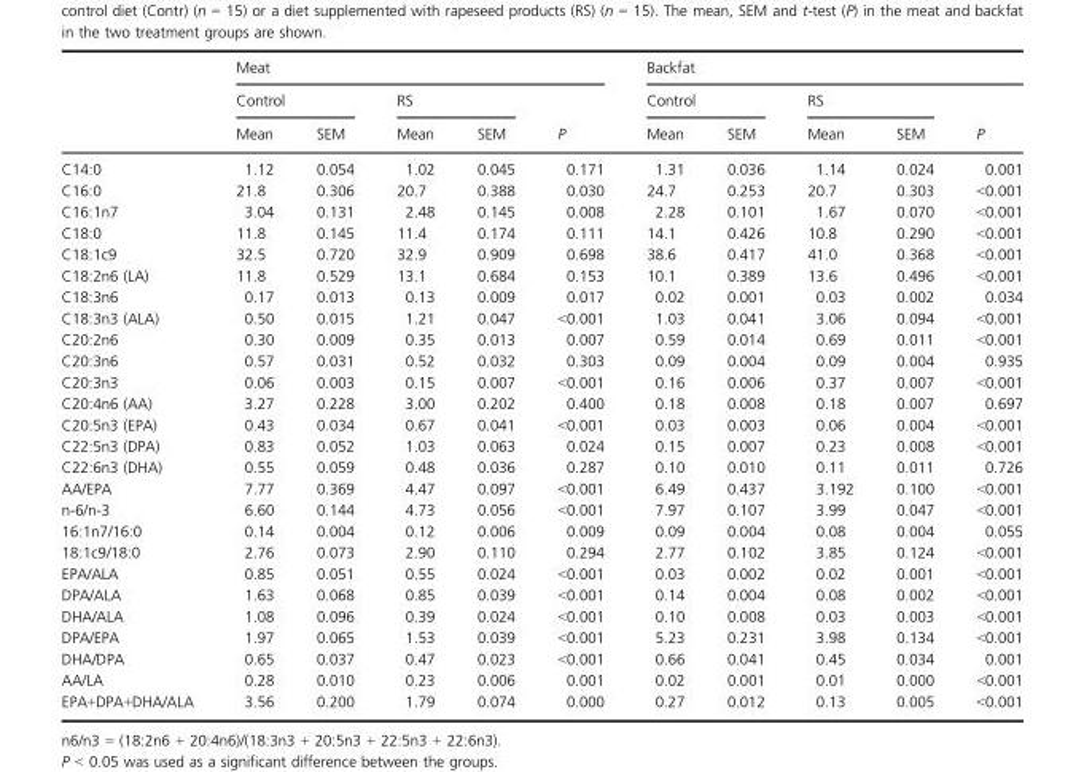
<table><thead><tr><td rowspan="3"></td><td colspan="5">Meat</td><td colspan="5">Backfat</td></tr><tr><td colspan="2">Control</td><td colspan="2">RS</td><td rowspan="2">P</td><td colspan="2">Control</td><td colspan="2">RS</td><td rowspan="2">P</td></tr><tr><td>Mean</td><td>SEM</td><td>Mean</td><td>SEM</td><td>Mean</td><td>SEM</td><td>Mean</td><td>SEM</td></tr></thead><tbody><tr><td>C14:0</td><td>1.12</td><td>0.054</td><td>1.02</td><td>0.045</td><td>0.171</td><td>1.31</td><td>0.036</td><td>1.14</td><td>0.024</td><td>0.001</td></tr><tr><td>C16:0</td><td>21.8</td><td>0.306</td><td>20.7</td><td>0.388</td><td>0.030</td><td>24.7</td><td>0.253</td><td>20.7</td><td>0.303</td><td>&lt;0.001</td></tr><tr><td>C16:1n7</td><td>3.04</td><td>0.131</td><td>2.48</td><td>0.145</td><td>0.008</td><td>2.28</td><td>0.101</td><td>1.67</td><td>0.070</td><td>&lt;0.001</td></tr><tr><td>C18:0</td><td>11.8</td><td>0.145</td><td>11.4</td><td>0.174</td><td>0.111</td><td>14.1</td><td>0.426</td><td>10.8</td><td>0.290</td><td>&lt;0.001</td></tr><tr><td>C18:1c9</td><td>32.5</td><td>0.720</td><td>32.9</td><td>0.909</td><td>0.698</td><td>38.6</td><td>0.417</td><td>41.0</td><td>0.368</td><td>&lt;0.001</td></tr><tr><td>C18:2n6 (LA)</td><td>11.8</td><td>0.529</td><td>13.1</td><td>0.684</td><td>0.153</td><td>10.1</td><td>0.389</td><td>13.6</td><td>0.496</td><td>&lt;0.001</td></tr><tr><td>C18:3n6</td><td>0.17</td><td>0.013</td><td>0.13</td><td>0.009</td><td>0.017</td><td>0.02</td><td>0.001</td><td>0.03</td><td>0.002</td><td>0.034</td></tr><tr><td>C18:3n3 (ALA)</td><td>0.50</td><td>0.015</td><td>1.21</td><td>0.047</td><td>&lt;0.001</td><td>1.03</td><td>0.041</td><td>3.06</td><td>0.094</td><td>&lt;0.001</td></tr><tr><td>C20:2n6</td><td>0.30</td><td>0.009</td><td>0.35</td><td>0.013</td><td>0.007</td><td>0.59</td><td>0.014</td><td>0.69</td><td>0.011</td><td>&lt;0.001</td></tr><tr><td>C20:3n6</td><td>0.57</td><td>0.031</td><td>0.52</td><td>0.032</td><td>0.303</td><td>0.09</td><td>0.004</td><td>0.09</td><td>0.004</td><td>0.935</td></tr><tr><td>C20:3n3</td><td>0.06</td><td>0.003</td><td>0.15</td><td>0.007</td><td>&lt;0.001</td><td>0.16</td><td>0.006</td><td>0.37</td><td>0.007</td><td>&lt;0.001</td></tr><tr><td>C20:4n6 (AA)</td><td>3.27</td><td>0.228</td><td>3.00</td><td>0.202</td><td>0.400</td><td>0.18</td><td>0.008</td><td>0.18</td><td>0.007</td><td>0.697</td></tr><tr><td>C20:5n3 (EPA)</td><td>0.43</td><td>0.034</td><td>0.67</td><td>0.041</td><td>&lt;0.001</td><td>0.03</td><td>0.003</td><td>0.06</td><td>0.004</td><td>&lt;0.001</td></tr><tr><td>C22:5n3 (DPA)</td><td>0.83</td><td>0.052</td><td>1.03</td><td>0.063</td><td>0.024</td><td>0.15</td><td>0.007</td><td>0.23</td><td>0.008</td><td>&lt;0.001</td></tr><tr><td>C22:6n3 (DHA)</td><td>0.55</td><td>0.059</td><td>0.48</td><td>0.036</td><td>0.287</td><td>0.10</td><td>0.010</td><td>0.11</td><td>0.011</td><td>0.726</td></tr><tr><td>AA/EPA</td><td>7.77</td><td>0.369</td><td>4.47</td><td>0.097</td><td>&lt;0.001</td><td>6.49</td><td>0.437</td><td>3.192</td><td>0.100</td><td>&lt;0.001</td></tr><tr><td>n-6/n-3</td><td>6.60</td><td>0.144</td><td>4.73</td><td>0.056</td><td>&lt;0.001</td><td>7.97</td><td>0.107</td><td>3.99</td><td>0.047</td><td>&lt;0.001</td></tr><tr><td>16:1n7/16:0</td><td>0.14</td><td>0.004</td><td>0.12</td><td>0.006</td><td>0.009</td><td>0.09</td><td>0.004</td><td>0.08</td><td>0.004</td><td>0.055</td></tr><tr><td>18:1c9/18:0</td><td>2.76</td><td>0.073</td><td>2.90</td><td>0.110</td><td>0.294</td><td>2.77</td><td>0.102</td><td>3.85</td><td>0.124</td><td>&lt;0.001</td></tr><tr><td>EPA/ALA</td><td>0.85</td><td>0.051</td><td>0.55</td><td>0.024</td><td>&lt;0.001</td><td>0.03</td><td>0.002</td><td>0.02</td><td>0.001</td><td>&lt;0.001</td></tr><tr><td>DPA/ALA</td><td>1.63</td><td>0.068</td><td>0.85</td><td>0.039</td><td>&lt;0.001</td><td>0.14</td><td>0.004</td><td>0.08</td><td>0.002</td><td>&lt;0.001</td></tr><tr><td>DHA/ALA</td><td>1.08</td><td>0.096</td><td>0.39</td><td>0.024</td><td>&lt;0.001</td><td>0.10</td><td>0.008</td><td>0.03</td><td>0.003</td><td>&lt;0.001</td></tr><tr><td>DPA/EPA</td><td>1.97</td><td>0.065</td><td>1.53</td><td>0.039</td><td>&lt;0.001</td><td>5.23</td><td>0.231</td><td>3.98</td><td>0.134</td><td>&lt;0.001</td></tr><tr><td>DHA/DPA</td><td>0.65</td><td>0.037</td><td>0.47</td><td>0.023</td><td>&lt;0.001</td><td>0.66</td><td>0.041</td><td>0.45</td><td>0.034</td><td>0.001</td></tr><tr><td>AA/LA</td><td>0.28</td><td>0.010</td><td>0.23</td><td>0.006</td><td>0.001</td><td>0.02</td><td>0.001</td><td>0.01</td><td>0.000</td><td>&lt;0.001</td></tr><tr><td>EPA+DPA+DHA/ALA</td><td>3.56</td><td>0.200</td><td>1.79</td><td>0.074</td><td>0.000</td><td>0.27</td><td>0.012</td><td>0.13</td><td>0.005</td><td>&lt;0.001</td></tr></tbody></table>